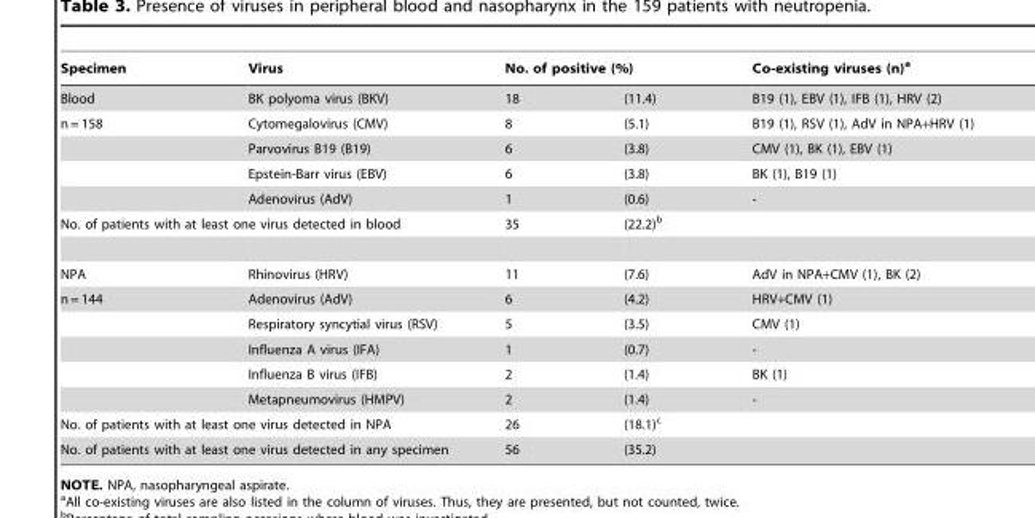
<table><thead><tr><td rowspan="2">Specimen Blood</td><td rowspan="2">Virus BK polyoma virus (BKV)</td><td colspan="2">No. of positive (%)</td><td rowspan="2">Co-existing viruses (n)<sup>a</sup> B19 (1), EBV (1), IFB (1), HRV (2)</td></tr><tr><td>18</td><td>(11.4)</td></tr></thead><tbody><tr><td rowspan="4">n = 158</td><td>Cytomegalovirus (CMV)</td><td>8</td><td>(5.1)</td><td>B19 (1), RSV (1), AdV in NPA+HRV (1)</td></tr><tr><td>Parvovirus B19 (B19)</td><td>6</td><td>(3.8)</td><td>CMV (1), BK (1), EBV (1)</td></tr><tr><td>Epstein-Barr virus (EBV)</td><td>6</td><td>(3.8)</td><td>BK (1), B19 (1)</td></tr><tr><td>Adenovirus (AdV)</td><td>1</td><td>(0.6)</td><td>-</td></tr><tr><td colspan="2">No. of patients with at least one virus detected in blood</td><td>35</td><td>(22.2)<sup>b</sup></td><td></td></tr><tr><td>NPA</td><td>Rhinovirus (HRV)</td><td>11</td><td>(7.6)</td><td>AdV in NPA+CMV (1), BK (2)</td></tr><tr><td rowspan="5">n = 144</td><td>Adenovirus (AdV)</td><td>6</td><td>(4.2)</td><td>HRV+CMV (1)</td></tr><tr><td>Respiratory syncytial virus (RSV)</td><td>5</td><td>(3.5)</td><td>CMV (1)</td></tr><tr><td>Influenza A virus (IFA)</td><td>1</td><td>(0.7)</td><td>-</td></tr><tr><td>Influenza B virus (IFB)</td><td>2</td><td>(1.4)</td><td>BK (1)</td></tr><tr><td>Metapneumovirus (HMPV)</td><td>2</td><td>(1.4)</td><td>-</td></tr><tr><td colspan="2">No. of patients with at least one virus detected in NPA</td><td>26</td><td>(18.1)<sup>c</sup></td><td></td></tr><tr><td colspan="2">No. of patients with at least one virus detected in any specimen</td><td>56</td><td>(35.2)</td><td></td></tr></tbody></table>